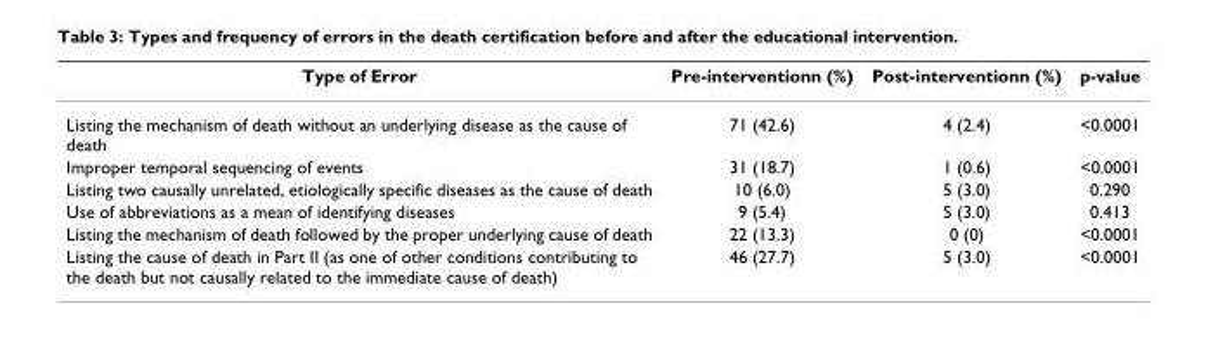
<table><thead><tr><td>Type of Error</td><td>Pre-interventionn (%)</td><td>Post-interventionn (%)</td><td>p-value</td></tr></thead><tbody><tr><td>Listing the mechanism of death without an underlying disease as the cause of death</td><td>71 (42.6)</td><td>4 (2.4)</td><td>&lt;0.0001</td></tr><tr><td>Improper temporal sequencing of events</td><td>31 (18.7)</td><td>1 (0.6)</td><td>&lt;0.0001</td></tr><tr><td>Listing two causally unrelated, etiologically specific diseases as the cause of death</td><td>10 (6.0)</td><td>5 (3.0)</td><td>0.290</td></tr><tr><td>Use of abbreviations as a mean of identifying diseases</td><td>9 (5.4)</td><td>5 (3.0)</td><td>0.413</td></tr><tr><td>Listing the mechanism of death followed by the proper underlying cause of death</td><td>22 (13.3)</td><td>0 (0)</td><td>&lt;0.0001</td></tr><tr><td>Listing the cause of death in Part II (as one of other conditions contributing to the death but not causally related to the immediate cause of death)</td><td>46 (27.7)</td><td>5 (3.0)</td><td>&lt;0.0001</td></tr></tbody></table>